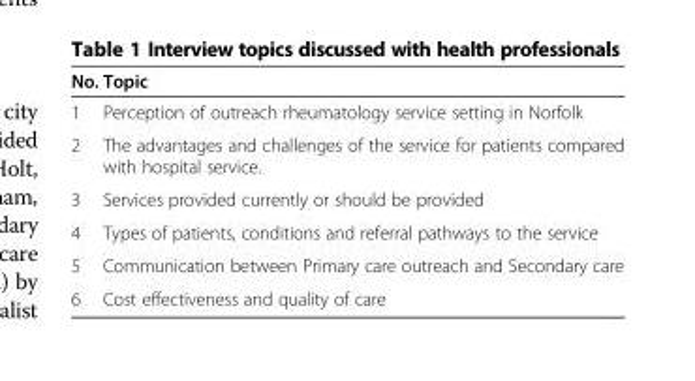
<table><thead><tr><td>No.</td><td>Topic</td></tr></thead><tbody><tr><td>1</td><td>Perception of outreach rheumatology service setting in Norfolk</td></tr><tr><td>2</td><td>The advantages and challenges of the service for patients compared with hospital service.</td></tr><tr><td>3</td><td>Services provided currently or should be provided</td></tr><tr><td>4</td><td>Types of patients, conditions and referral pathways to the service</td></tr><tr><td>5</td><td>Communication between Primary care outreach and Secondary care</td></tr><tr><td>6</td><td>Cost effectiveness and quality of care</td></tr></tbody></table>